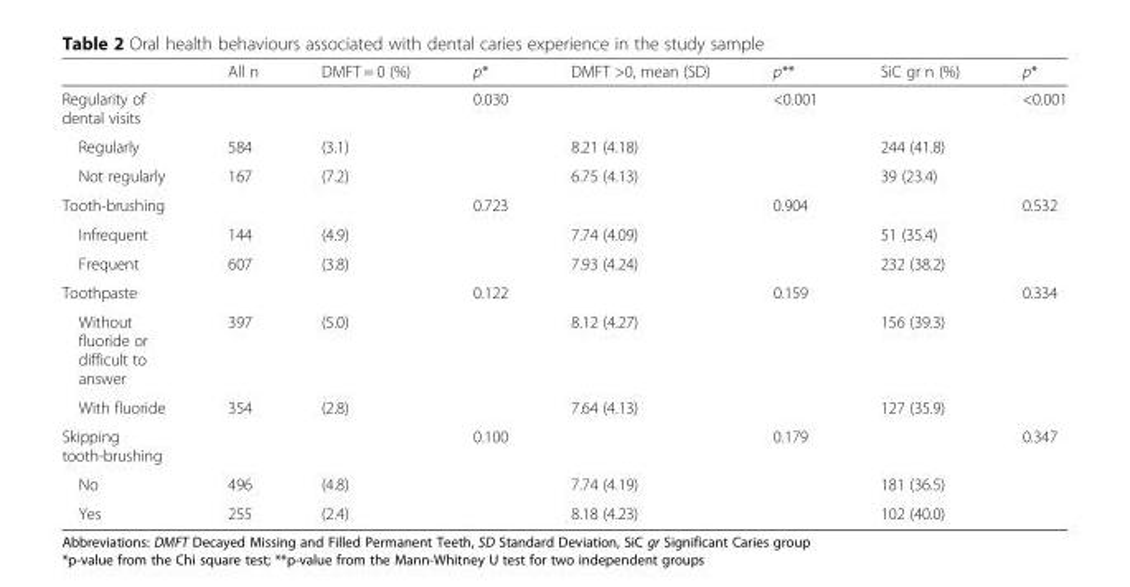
<table><thead><tr><td></td><td>All n</td><td>DMFT = 0 (%)</td><td>p*</td><td>DMFT &gt;0, mean (SD)</td><td>p**</td><td>SiC gr n (%)</td><td>p*</td></tr></thead><tbody><tr><td>Regularity of dental visits</td><td></td><td></td><td>0.030</td><td></td><td>&lt;0.001</td><td></td><td>&lt;0.001</td></tr><tr><td>Regularly</td><td>584</td><td>(3.1)</td><td></td><td>8.21 (4.18)</td><td></td><td>244 (41.8)</td><td></td></tr><tr><td>Not regularly</td><td>167</td><td>(7.2)</td><td></td><td>6.75 (4.13)</td><td></td><td>39 (23.4)</td><td></td></tr><tr><td>Tooth-brushing</td><td></td><td></td><td>0.723</td><td></td><td>0.904</td><td></td><td>0.532</td></tr><tr><td>Infrequent</td><td>144</td><td>(4.9)</td><td></td><td>7.74 (4.09)</td><td></td><td>51 (35.4)</td><td></td></tr><tr><td>Frequent</td><td>607</td><td>(3.8)</td><td></td><td>7.93 (4.24)</td><td></td><td>232 (38.2)</td><td></td></tr><tr><td>Toothpaste</td><td></td><td></td><td>0.122</td><td></td><td>0.159</td><td></td><td>0.334</td></tr><tr><td>Without fluoride or difficult to answer</td><td>397</td><td>(5.0)</td><td></td><td>8.12 (4.27)</td><td></td><td>156 (39.3)</td><td></td></tr><tr><td>With fluoride</td><td>354</td><td>(2.8)</td><td></td><td>7.64 (4.13)</td><td></td><td>127 (35.9)</td><td></td></tr><tr><td>Skipping tooth-brushing</td><td></td><td></td><td>0.100</td><td></td><td>0.179</td><td></td><td>0.347</td></tr><tr><td>No</td><td>496</td><td>(4.8)</td><td></td><td>7.74 (4.19)</td><td></td><td>181 (36.5)</td><td></td></tr><tr><td>Yes</td><td>255</td><td>(2.4)</td><td></td><td>8.18 (4.23)</td><td></td><td>102 (40.0)</td><td></td></tr></tbody></table>